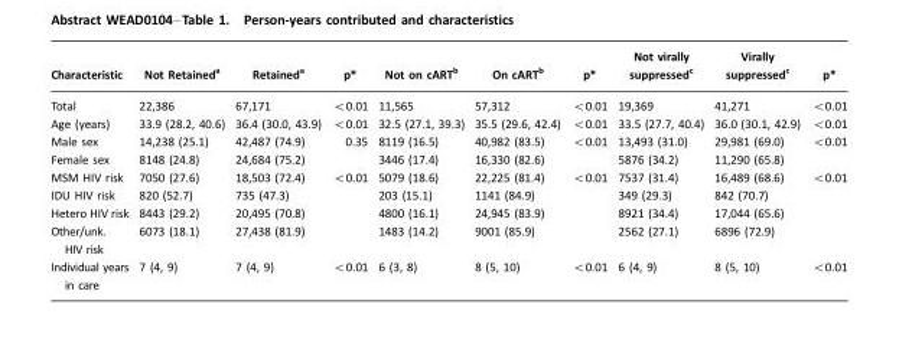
<table><thead><tr><td>Characteristic</td><td>Not Retaineda</td><td>Retaineda</td><td>p*</td><td>Not on cARTb</td><td>On cARTb</td><td>p*</td><td>Not virally suppressedc</td><td>Virally suppressedc</td><td>p*</td></tr></thead><tbody><tr><td>Total</td><td>22,386</td><td>67,171</td><td>&lt;0.01</td><td>11,565</td><td>57,312</td><td>&lt;0.01</td><td>19,369</td><td>41,271</td><td>&lt;0.01</td></tr><tr><td>Age (years)</td><td>33.9 (28.2, 40.6)</td><td>36.4 (30.0, 43.9)</td><td>&lt;0.01</td><td>32.5 (27.1, 39.3)</td><td>35.5 (29.6, 42.4)</td><td>&lt;0.01</td><td>33.5 (27.7, 40.4)</td><td>36.0 (30.1, 42.9)</td><td>&lt;0.01</td></tr><tr><td>Male sex</td><td>14,238 (25.1)</td><td>42,487 (74.9)</td><td>0.35</td><td>8119 (16.5)</td><td>40,982 (83.5)</td><td>&lt;0.01</td><td>13,493 (31.0)</td><td>29,981 (69.0)</td><td>&lt;0.01</td></tr><tr><td>Female sex</td><td>8148 (24.8)</td><td>24,684 (75.2)</td><td></td><td>3446 (17.4)</td><td>16,330 (82.6)</td><td></td><td>5876 (34.2)</td><td>11,290 (65.8)</td><td></td></tr><tr><td>MSM HIV risk</td><td>7050 (27.6)</td><td>18,503 (72.4)</td><td>&lt;0.01</td><td>5079 (18.6)</td><td>22,225 (81.4)</td><td>&lt;0.01</td><td>7537 (31.4)</td><td>16,489 (68.6)</td><td>&lt;0.01</td></tr><tr><td>IDU HIV risk</td><td>820 (52.7)</td><td>735 (47.3)</td><td></td><td>203 (15.1)</td><td>1141 (84.9)</td><td></td><td>349 (29.3)</td><td>842 (70.7)</td><td></td></tr><tr><td>Hetero HIV risk</td><td>8443 (29.2)</td><td>20,495 (70.8)</td><td></td><td>4800 (16.1)</td><td>24,945 (83.9)</td><td></td><td>8921 (34.4)</td><td>17,044 (65.6)</td><td></td></tr><tr><td>Other/unk. HIV risk</td><td>6073 (18.1)</td><td>27,438 (81.9)</td><td></td><td>1483 (14.2)</td><td>9001 (85.9)</td><td></td><td>2562 (27.1)</td><td>6896 (72.9)</td><td></td></tr><tr><td>Individual years in care</td><td>7 (4, 9)</td><td>7 (4, 9)</td><td>&lt;0.01</td><td>6 (3, 8)</td><td>8 (5, 10)</td><td>&lt;0.01</td><td>6 (4, 9)</td><td>8 (5, 10)</td><td>&lt;0.01</td></tr></tbody></table>